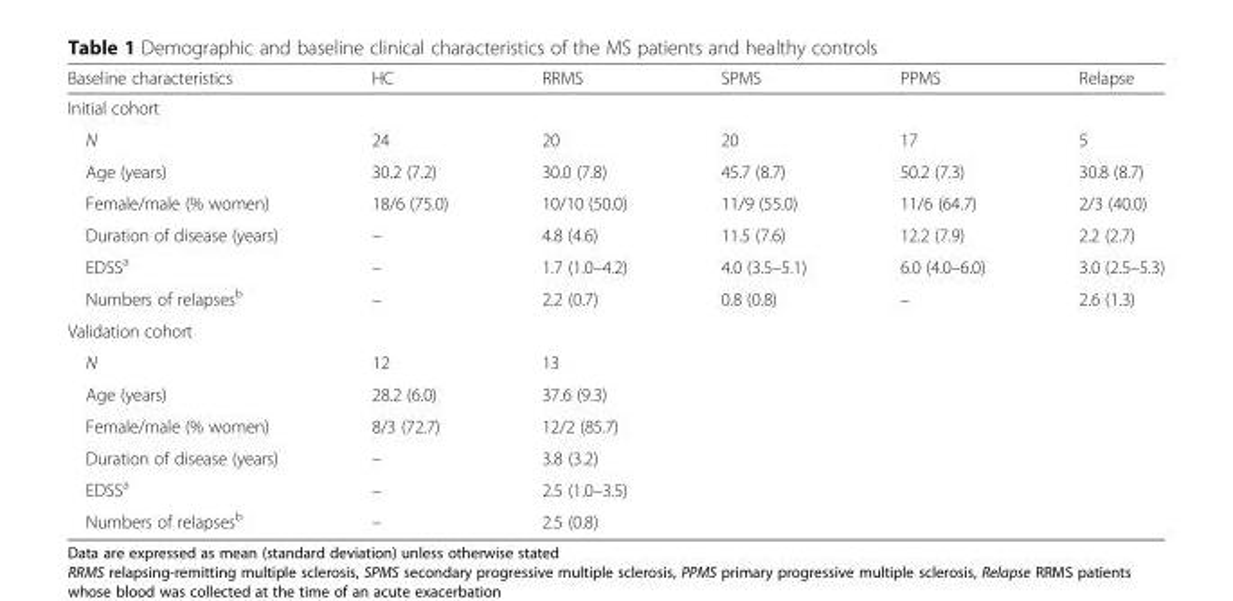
<table><thead><tr><td>Baseline characteristics</td><td>HC</td><td>RRMS</td><td>SPMS</td><td>PPMS</td><td>Relapse</td></tr></thead><tbody><tr><td colspan="6">Initial cohort</td></tr><tr><td>N</td><td>24</td><td>20</td><td>20</td><td>17</td><td>5</td></tr><tr><td>Age (years)</td><td>30.2 (7.2)</td><td>30.0 (7.8)</td><td>45.7 (8.7)</td><td>50.2 (7.3)</td><td>30.8 (8.7)</td></tr><tr><td>Female/male (% women)</td><td>18/6 (75.0)</td><td>10/10 (50.0)</td><td>11/9 (55.0)</td><td>11/6 (64.7)</td><td>2/3 (40.0)</td></tr><tr><td>Duration of disease (years)</td><td>–</td><td>4.8 (4.6)</td><td>11.5 (7.6)</td><td>12.2 (7.9)</td><td>2.2 (2.7)</td></tr><tr><td>EDSS<sup>a</sup></td><td>–</td><td>1.7 (1.0–4.2)</td><td>4.0 (3.5–5.1)</td><td>6.0 (4.0–6.0)</td><td>3.0 (2.5–5.3)</td></tr><tr><td>Numbers of relapses<sup>b</sup></td><td>–</td><td>2.2 (0.7)</td><td>0.8 (0.8)</td><td>–</td><td>2.6 (1.3)</td></tr><tr><td colspan="6">Validation cohort</td></tr><tr><td>N</td><td>12</td><td>13</td><td></td><td></td><td></td></tr><tr><td>Age (years)</td><td>28.2 (6.0)</td><td>37.6 (9.3)</td><td></td><td></td><td></td></tr><tr><td>Female/male (% women)</td><td>8/3 (72.7)</td><td>12/2 (85.7)</td><td></td><td></td><td></td></tr><tr><td>Duration of disease (years)</td><td>–</td><td>3.8 (3.2)</td><td></td><td></td><td></td></tr><tr><td>EDSS<sup>a</sup></td><td>–</td><td>2.5 (1.0–3.5)</td><td></td><td></td><td></td></tr><tr><td>Numbers of relapses<sup>b</sup></td><td>–</td><td>2.5 (0.8)</td><td></td><td></td><td></td></tr></tbody></table>